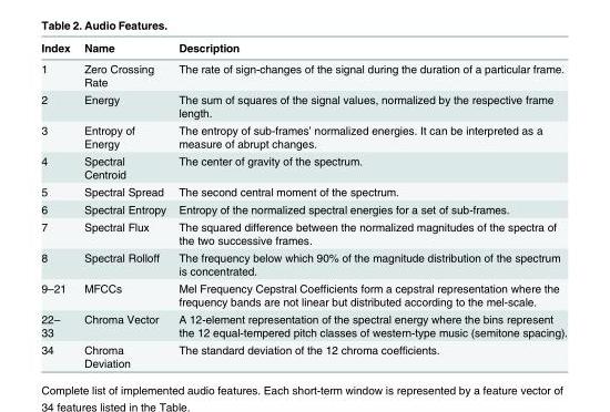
<table><thead><tr><td>Index</td><td>Name</td><td>Description</td></tr></thead><tbody><tr><td>1</td><td>Zero Crossing Rate</td><td>The rate of sign-changes of the signal during the duration of a particular frame.</td></tr><tr><td>2</td><td>Energy</td><td>The sum of squares of the signal values, normalized by the respective frame length.</td></tr><tr><td>3</td><td>Entropy of Energy</td><td>The entropy of sub-frames’ normalized energies. It can be interpreted as a measure of abrupt changes.</td></tr><tr><td>4</td><td>Spectral Centroid</td><td>The center of gravity of the spectrum.</td></tr><tr><td>5</td><td>Spectral Spread</td><td>The second central moment of the spectrum.</td></tr><tr><td>6</td><td>Spectral Entropy</td><td>Entropy of the normalized spectral energies for a set of sub-frames.</td></tr><tr><td>7</td><td>Spectral Flux</td><td>The squared difference between the normalized magnitudes of the spectra of the two successive frames.</td></tr><tr><td>8</td><td>Spectral Rolloff</td><td>The frequency below which 90% of the magnitude distribution of the spectrum is concentrated.</td></tr><tr><td>9–21</td><td>MFCCs</td><td>Mel Frequency Cepstral Coefficients form a cepstral representation where the frequency bands are not linear but distributed according to the mel-scale.</td></tr><tr><td>22– 33</td><td>Chroma Vector</td><td>A 12-element representation of the spectral energy where the bins represent the 12 equal-tempered pitch classes of western-type music (semitone spacing).</td></tr><tr><td>34</td><td>Chroma Deviation</td><td>The standard deviation of the 12 chroma coefficients.</td></tr></tbody></table>